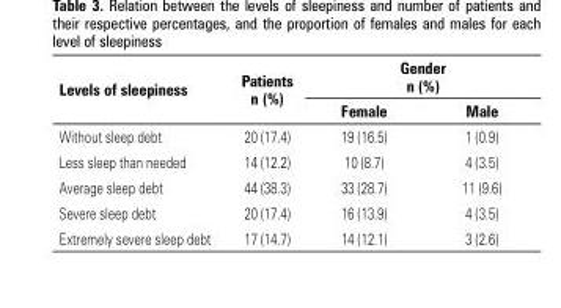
<table><thead><tr><td rowspan="2">Levels of sleepiness</td><td rowspan="2">Patients n (%)</td><td colspan="2">Gender n (%)</td></tr><tr><td>Female</td><td>Male</td></tr></thead><tbody><tr><td>Without sleep debt</td><td>20 (17.4)</td><td>19 (16.5)</td><td>1 (0.9)</td></tr><tr><td>Less sleep than needed</td><td>14 (12.2)</td><td>10 (8.7)</td><td>4 (3.5)</td></tr><tr><td>Average sleep debt</td><td>44 (38.3)</td><td>33 (28.7)</td><td>11 (9.6)</td></tr><tr><td>Severe sleep debt</td><td>20 (17.4)</td><td>16 (13.9)</td><td>4 (3.5)</td></tr><tr><td>Extremely severe sleep debt</td><td>17 (14.7)</td><td>14 (12.1)</td><td>3 (2.6)</td></tr></tbody></table>